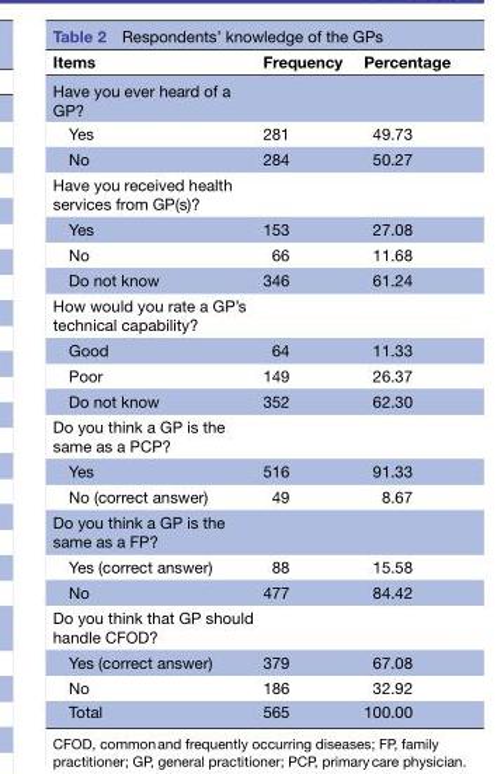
<table><thead><tr><td>Items</td><td>Frequency</td><td>Percentage</td></tr></thead><tbody><tr><td colspan="3">Have you ever heard of a GP?</td></tr><tr><td>Yes</td><td>281</td><td>49.73</td></tr><tr><td>No</td><td>284</td><td>50.27</td></tr><tr><td colspan="3">Have you received health services from GP(s)?</td></tr><tr><td>Yes</td><td>153</td><td>27.08</td></tr><tr><td>No</td><td>66</td><td>11.68</td></tr><tr><td>Do not know</td><td>346</td><td>61.24</td></tr><tr><td colspan="3">How would you rate a GP’s technical capability?</td></tr><tr><td>Good</td><td>64</td><td>11.33</td></tr><tr><td>Poor</td><td>149</td><td>26.37</td></tr><tr><td>Do not know</td><td>352</td><td>62.30</td></tr><tr><td colspan="3">Do you think a GP is the same as a PCP?</td></tr><tr><td>Yes</td><td>516</td><td>91.33</td></tr><tr><td>No (correct answer)</td><td>49</td><td>8.67</td></tr><tr><td colspan="3">Do you think a GP is the same as a FP?</td></tr><tr><td>Yes (correct answer)</td><td>88</td><td>15.58</td></tr><tr><td>No</td><td>477</td><td>84.42</td></tr><tr><td colspan="3">Do you think that GP should handle CFOD?</td></tr><tr><td>Yes (correct answer)</td><td>379</td><td>67.08</td></tr><tr><td>No</td><td>186</td><td>32.92</td></tr><tr><td>Total</td><td>565</td><td>100.00</td></tr></tbody></table>